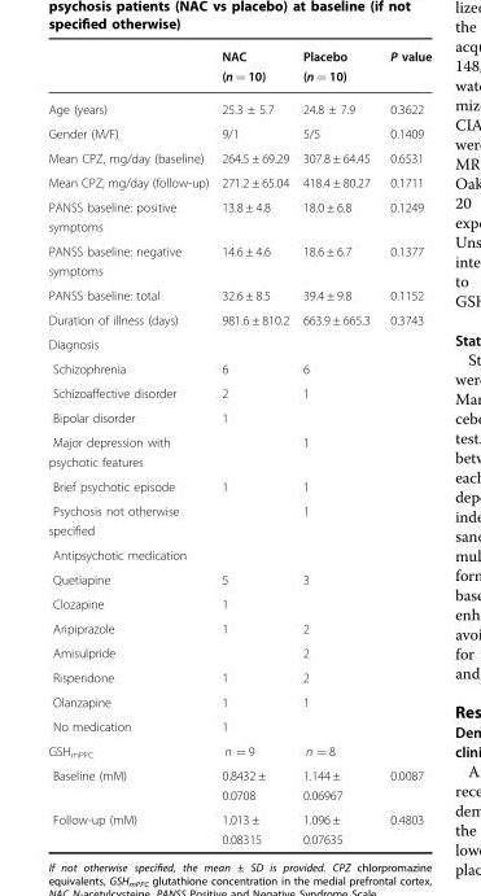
<table><thead><tr><td></td><td>NAC (n = 10)</td><td>Placebo (n = 10)</td><td>P value</td></tr></thead><tbody><tr><td>Age (years)</td><td>25.3 ± 5.7</td><td>24.8 ± 7.9</td><td>0.3622</td></tr><tr><td>Gender (M/F)</td><td>9/1</td><td>5/5</td><td>0.1409</td></tr><tr><td>Mean CPZ, mg/day (baseline)</td><td>264.5 ± 69.29</td><td>307.8 ± 64.45</td><td>0.6531</td></tr><tr><td>Mean CPZ, mg/day (follow-up)</td><td>271.2 ± 65.04</td><td>418.4 ± 80.27</td><td>0.1711</td></tr><tr><td>PANSS baseline: positive symptoms</td><td>13.8 ± 4.8</td><td>18.0 ± 6.8</td><td>0.1249</td></tr><tr><td>PANSS baseline: negative symptoms</td><td>14.6 ± 4.6</td><td>18.6 ± 6.7</td><td>0.1377</td></tr><tr><td>PANSS baseline: total</td><td>32.6 ± 8.5</td><td>39.4 ± 9.8</td><td>0.1152</td></tr><tr><td>Duration of illness (days)</td><td>981.6 ± 810.2</td><td>663.9 ± 665.3</td><td>0.3743</td></tr><tr><td colspan="4">Diagnosis</td></tr><tr><td>Schizophrenia</td><td>6</td><td>6</td><td></td></tr><tr><td>Schizoaffective disorder</td><td>2</td><td>1</td><td></td></tr><tr><td>Bipolar disorder</td><td>1</td><td></td><td></td></tr><tr><td>Major depression with psychotic features</td><td></td><td>1</td><td></td></tr><tr><td>Brief psychotic episode</td><td>1</td><td>1</td><td></td></tr><tr><td>Psychosis not otherwise specified</td><td></td><td>1</td><td></td></tr><tr><td colspan="4">Antipsychotic medication</td></tr><tr><td>Quetiapine</td><td>5</td><td>3</td><td></td></tr><tr><td>Clozapine</td><td>1</td><td></td><td></td></tr><tr><td>Aripiprazole</td><td>1</td><td>2</td><td></td></tr><tr><td>Amisulpride</td><td></td><td>2</td><td></td></tr><tr><td>Risperidone</td><td>1</td><td>2</td><td></td></tr><tr><td>Olanzapine</td><td>1</td><td>1</td><td></td></tr><tr><td>No medication</td><td>1</td><td></td><td></td></tr><tr><td>GSH<sub>mPFC</sub></td><td>n = 9</td><td>n = 8</td><td></td></tr><tr><td>Baseline (mM)</td><td>0.8432 ± 0.0708</td><td>1.144 ± 0.06967</td><td>0.0087</td></tr><tr><td>Follow-up (mM)</td><td>1.013 ± 0.08315</td><td>1.096 ± 0.07635</td><td>0.4803</td></tr></tbody></table>